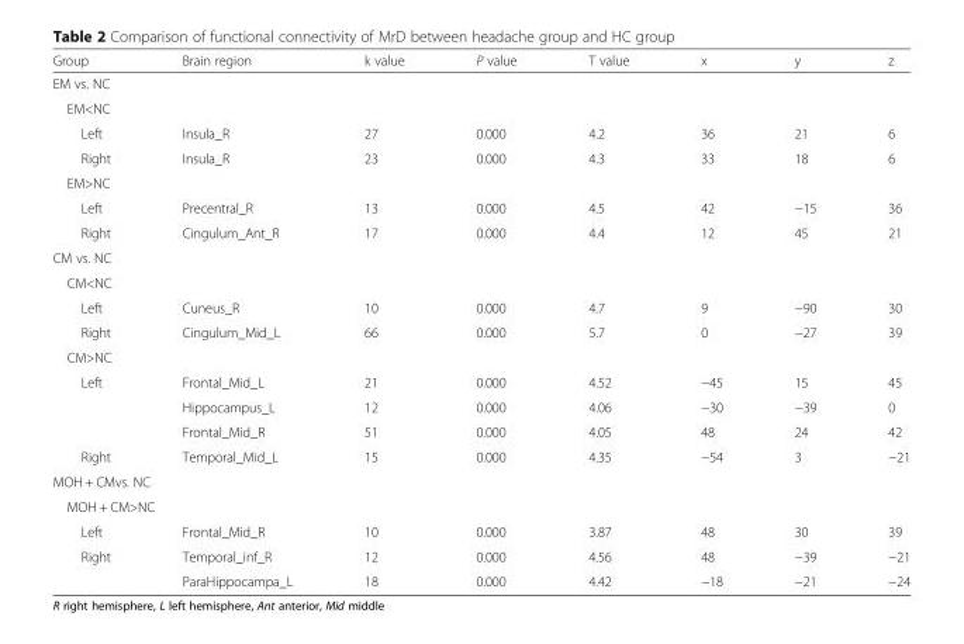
<table><thead><tr><td>Group</td><td>Brain region</td><td>k value</td><td>P value</td><td>T value</td><td>x</td><td>y</td><td>z</td></tr></thead><tbody><tr><td colspan="8">EM vs. NC</td></tr><tr><td colspan="8">EM&lt;NC</td></tr><tr><td>Left</td><td>Insula_R</td><td>27</td><td>0.000</td><td>4.2</td><td>36</td><td>21</td><td>6</td></tr><tr><td>Right</td><td>Insula_R</td><td>23</td><td>0.000</td><td>4.3</td><td>33</td><td>18</td><td>6</td></tr><tr><td colspan="8">EM&gt;NC</td></tr><tr><td>Left</td><td>Precentral_R</td><td>13</td><td>0.000</td><td>4.5</td><td>42</td><td>−15</td><td>36</td></tr><tr><td>Right</td><td>Cingulum_Ant_R</td><td>17</td><td>0.000</td><td>4.4</td><td>12</td><td>45</td><td>21</td></tr><tr><td colspan="8">CM vs. NC</td></tr><tr><td colspan="8">CM&lt;NC</td></tr><tr><td>Left</td><td>Cuneus_R</td><td>10</td><td>0.000</td><td>4.7</td><td>9</td><td>−90</td><td>30</td></tr><tr><td>Right</td><td>Cingulum_Mid_L</td><td>66</td><td>0.000</td><td>5.7</td><td>0</td><td>−27</td><td>39</td></tr><tr><td colspan="8">CM&gt;NC</td></tr><tr><td rowspan="3">Left</td><td>Frontal_Mid_L</td><td>21</td><td>0.000</td><td>4.52</td><td>−45</td><td>15</td><td>45</td></tr><tr><td>Hippocampus_L</td><td>12</td><td>0.000</td><td>4.06</td><td>−30</td><td>−39</td><td>0</td></tr><tr><td>Frontal_Mid_R</td><td>51</td><td>0.000</td><td>4.05</td><td>48</td><td>24</td><td>42</td></tr><tr><td>Right</td><td>Temporal_Mid_L</td><td>15</td><td>0.000</td><td>4.35</td><td>−54</td><td>3</td><td>−21</td></tr><tr><td colspan="8">MOH + CMvs. NC</td></tr><tr><td colspan="8">MOH + CM&gt;NC</td></tr><tr><td>Left</td><td>Frontal_Mid_R</td><td>10</td><td>0.000</td><td>3.87</td><td>48</td><td>30</td><td>39</td></tr><tr><td rowspan="2">Right</td><td>Temporal_inf_R</td><td>12</td><td>0.000</td><td>4.56</td><td>48</td><td>−39</td><td>−21</td></tr><tr><td>ParaHippocampa_L</td><td>18</td><td>0.000</td><td>4.42</td><td>−18</td><td>−21</td><td>−24</td></tr></tbody></table>